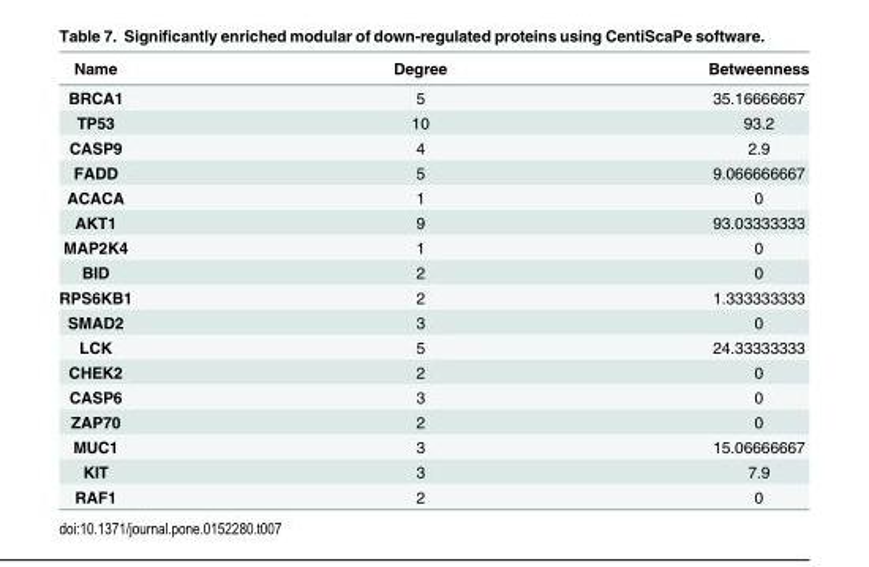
<table><thead><tr><td>Name</td><td>Degree</td><td>Betweenness</td></tr></thead><tbody><tr><td>BRCA1</td><td>5</td><td>35.16666667</td></tr><tr><td>TP53</td><td>10</td><td>93.2</td></tr><tr><td>CASP9</td><td>4</td><td>2.9</td></tr><tr><td>FADD</td><td>5</td><td>9.066666667</td></tr><tr><td>ACACA</td><td>1</td><td>0</td></tr><tr><td>AKT1</td><td>9</td><td>93.03333333</td></tr><tr><td>MAP2K4</td><td>1</td><td>0</td></tr><tr><td>BID</td><td>2</td><td>0</td></tr><tr><td>RPS6KB1</td><td>2</td><td>1.333333333</td></tr><tr><td>SMAD2</td><td>3</td><td>0</td></tr><tr><td>LCK</td><td>5</td><td>24.33333333</td></tr><tr><td>CHEK2</td><td>2</td><td>0</td></tr><tr><td>CASP6</td><td>3</td><td>0</td></tr><tr><td>ZAP70</td><td>2</td><td>0</td></tr><tr><td>MUC1</td><td>3</td><td>15.06666667</td></tr><tr><td>KIT</td><td>3</td><td>7.9</td></tr><tr><td>RAF1</td><td>2</td><td>0</td></tr></tbody></table>